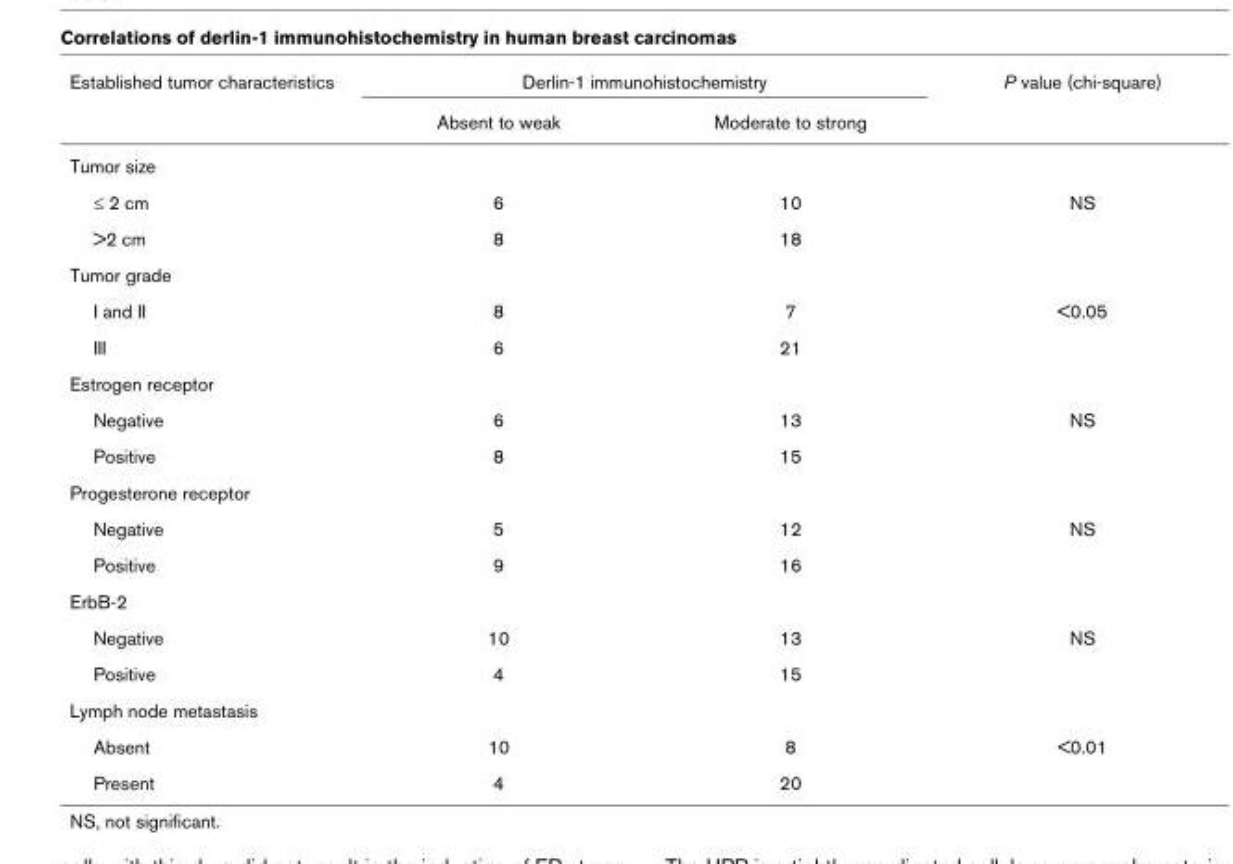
<table><thead><tr><td rowspan="2">Established tumor characteristics</td><td colspan="2">Derlin-1 immunohistochemistry</td><td rowspan="2">P value (chi-square)</td></tr><tr><td>Absent to weak</td><td>Moderate to strong</td></tr></thead><tbody><tr><td colspan="4">Tumor size</td></tr><tr><td>≤ 2 cm</td><td>6</td><td>10</td><td>NS</td></tr><tr><td>&gt;2 cm</td><td>8</td><td>18</td><td></td></tr><tr><td colspan="4">Tumor grade</td></tr><tr><td>I and II</td><td>8</td><td>7</td><td>&lt;0.05</td></tr><tr><td>III</td><td>6</td><td>21</td><td></td></tr><tr><td colspan="4">Estrogen receptor</td></tr><tr><td>Negative</td><td>6</td><td>13</td><td>NS</td></tr><tr><td>Positive</td><td>8</td><td>15</td><td></td></tr><tr><td colspan="4">Progesterone receptor</td></tr><tr><td>Negative</td><td>5</td><td>12</td><td>NS</td></tr><tr><td>Positive</td><td>9</td><td>16</td><td></td></tr><tr><td colspan="4">ErbB-2</td></tr><tr><td>Negative</td><td>10</td><td>13</td><td>NS</td></tr><tr><td>Positive</td><td>4</td><td>15</td><td></td></tr><tr><td colspan="4">Lymph node metastasis</td></tr><tr><td>Absent</td><td>10</td><td>8</td><td>&lt;0.01</td></tr><tr><td>Present</td><td>4</td><td>20</td><td></td></tr></tbody></table>